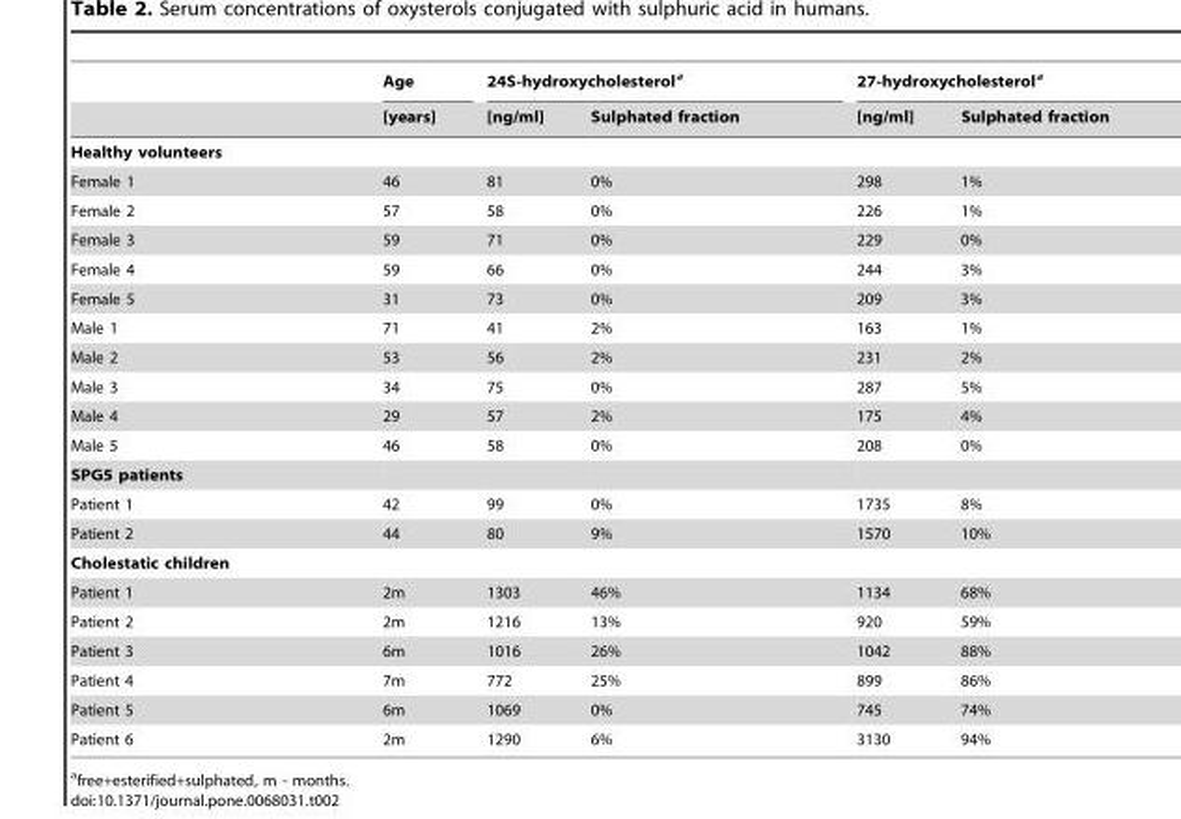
<table><thead><tr><td rowspan="2"></td><td rowspan="2">Age [years]</td><td colspan="2">24S-hydroxycholesterol<sup>a</sup></td><td colspan="2">27-hydroxycholesterol<sup>a</sup></td></tr><tr><td>[ng/ml]</td><td>Sulphated fraction</td><td>[ng/ml]</td><td>Sulphated fraction</td></tr></thead><tbody><tr><td colspan="6">Healthy volunteers</td></tr><tr><td>Female 1</td><td>46</td><td>81</td><td>0%</td><td>298</td><td>1%</td></tr><tr><td>Female 2</td><td>57</td><td>58</td><td>0%</td><td>226</td><td>1%</td></tr><tr><td>Female 3</td><td>59</td><td>71</td><td>0%</td><td>229</td><td>0%</td></tr><tr><td>Female 4</td><td>59</td><td>66</td><td>0%</td><td>244</td><td>3%</td></tr><tr><td>Female 5</td><td>31</td><td>73</td><td>0%</td><td>209</td><td>3%</td></tr><tr><td>Male 1</td><td>71</td><td>41</td><td>2%</td><td>163</td><td>1%</td></tr><tr><td>Male 2</td><td>53</td><td>56</td><td>2%</td><td>231</td><td>2%</td></tr><tr><td>Male 3</td><td>34</td><td>75</td><td>0%</td><td>287</td><td>5%</td></tr><tr><td>Male 4</td><td>29</td><td>57</td><td>2%</td><td>175</td><td>4%</td></tr><tr><td>Male 5</td><td>46</td><td>58</td><td>0%</td><td>208</td><td>0%</td></tr><tr><td colspan="6">SPG5 patients</td></tr><tr><td>Patient 1</td><td>42</td><td>99</td><td>0%</td><td>1735</td><td>8%</td></tr><tr><td>Patient 2</td><td>44</td><td>80</td><td>9%</td><td>1570</td><td>10%</td></tr><tr><td colspan="6">Cholestatic children</td></tr><tr><td>Patient 1</td><td>2m</td><td>1303</td><td>46%</td><td>1134</td><td>68%</td></tr><tr><td>Patient 2</td><td>2m</td><td>1216</td><td>13%</td><td>920</td><td>59%</td></tr><tr><td>Patient 3</td><td>6m</td><td>1016</td><td>26%</td><td>1042</td><td>88%</td></tr><tr><td>Patient 4</td><td>7m</td><td>772</td><td>25%</td><td>899</td><td>86%</td></tr><tr><td>Patient 5</td><td>6m</td><td>1069</td><td>0%</td><td>745</td><td>74%</td></tr><tr><td>Patient 6</td><td>2m</td><td>1290</td><td>6%</td><td>3130</td><td>94%</td></tr></tbody></table>